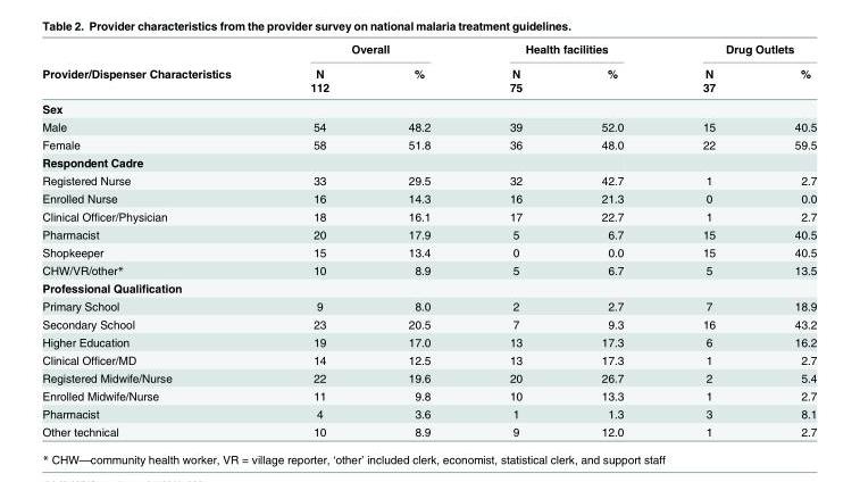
<table><thead><tr><td rowspan="3">Provider/Dispenser Characteristics</td><td colspan="2">Overall</td><td colspan="2">Health facilities</td><td colspan="2">Drug Outlets</td></tr><tr><td rowspan="2">N 112</td><td rowspan="2">%</td><td rowspan="2">N 75</td><td rowspan="2">%</td><td rowspan="2">N 37</td><td rowspan="2">%</td></tr><tr></tr></thead><tbody><tr><td colspan="7">Sex</td></tr><tr><td>Male</td><td>54</td><td>48.2</td><td>39</td><td>52.0</td><td>15</td><td>40.5</td></tr><tr><td>Female</td><td>58</td><td>51.8</td><td>36</td><td>48.0</td><td>22</td><td>59.5</td></tr><tr><td colspan="7">Respondent Cadre</td></tr><tr><td>Registered Nurse</td><td>33</td><td>29.5</td><td>32</td><td>42.7</td><td>1</td><td>2.7</td></tr><tr><td>Enrolled Nurse</td><td>16</td><td>14.3</td><td>16</td><td>21.3</td><td>0</td><td>0.0</td></tr><tr><td>Clinical Officer/Physician</td><td>18</td><td>16.1</td><td>17</td><td>22.7</td><td>1</td><td>2.7</td></tr><tr><td>Pharmacist</td><td>20</td><td>17.9</td><td>5</td><td>6.7</td><td>15</td><td>40.5</td></tr><tr><td>Shopkeeper</td><td>15</td><td>13.4</td><td>0</td><td>0.0</td><td>15</td><td>40.5</td></tr><tr><td>CHW/VR/other*</td><td>10</td><td>8.9</td><td>5</td><td>6.7</td><td>5</td><td>13.5</td></tr><tr><td colspan="7">Professional Qualification</td></tr><tr><td>Primary School</td><td>9</td><td>8.0</td><td>2</td><td>2.7</td><td>7</td><td>18.9</td></tr><tr><td>Secondary School</td><td>23</td><td>20.5</td><td>7</td><td>9.3</td><td>16</td><td>43.2</td></tr><tr><td>Higher Education</td><td>19</td><td>17.0</td><td>13</td><td>17.3</td><td>6</td><td>16.2</td></tr><tr><td>Clinical Officer/MD</td><td>14</td><td>12.5</td><td>13</td><td>17.3</td><td>1</td><td>2.7</td></tr><tr><td>Registered Midwife/Nurse</td><td>22</td><td>19.6</td><td>20</td><td>26.7</td><td>2</td><td>5.4</td></tr><tr><td>Enrolled Midwife/Nurse</td><td>11</td><td>9.8</td><td>10</td><td>13.3</td><td>1</td><td>2.7</td></tr><tr><td>Pharmacist</td><td>4</td><td>3.6</td><td>1</td><td>1.3</td><td>3</td><td>8.1</td></tr><tr><td>Other technical</td><td>10</td><td>8.9</td><td>9</td><td>12.0</td><td>1</td><td>2.7</td></tr></tbody></table>